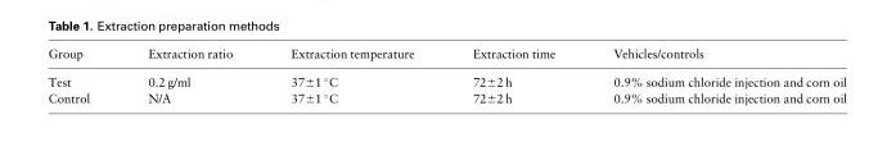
<table><thead><tr><td>Group</td><td>Extraction ratio</td><td>Extraction temperature</td><td>Extraction time</td><td>Vehicles/controls</td></tr></thead><tbody><tr><td>Test</td><td>0.2 g/ml</td><td>37±1 °C</td><td>72±2 h</td><td>0.9% sodium chloride injection and corn oil</td></tr><tr><td>Control</td><td>N/A</td><td>37±1 °C</td><td>72±2 h</td><td>0.9% sodium chloride injection and corn oil</td></tr></tbody></table>